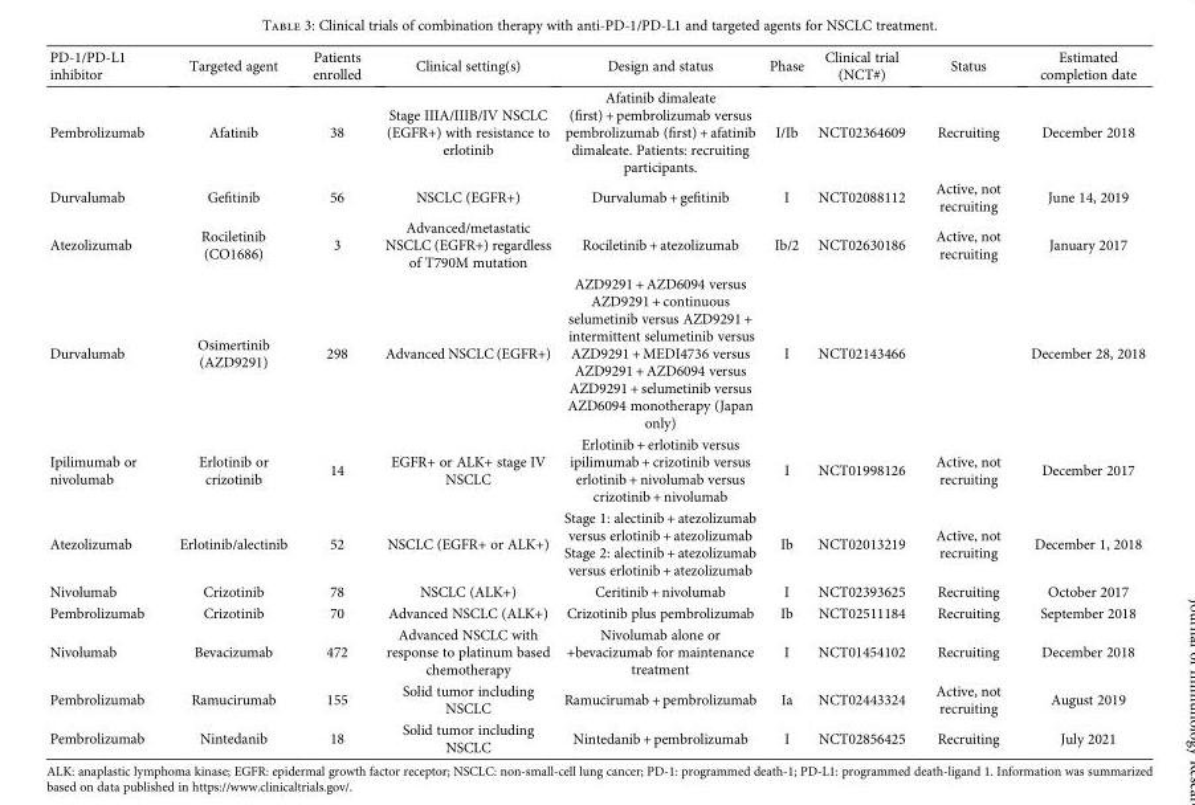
<table><thead><tr><td>PD-1/PD-L1 inhibitor</td><td>Targeted agent</td><td>Patients enrolled</td><td>Clinical setting(s)</td><td>Design and status</td><td>Phase</td><td>Clinical trial (NCT#)</td><td>Status</td><td>Estimated completion date</td></tr></thead><tbody><tr><td>Pembrolizumab</td><td>Afatinib</td><td>38</td><td>Stage IIIA/IIIB/IV NSCLC (EGFR+) with resistance to erlotinib</td><td>Afatinib dimaleate (first) + pembrolizumab versus pembrolizumab (first) + afatinib dimaleate. Patients: recruiting participants.</td><td>I/Ib</td><td>NCT02364609</td><td>Recruiting</td><td>December 2018</td></tr><tr><td>Durvalumab</td><td>Gefitinib</td><td>56</td><td>NSCLC (EGFR+)</td><td>Durvalumab + gefitinib</td><td>I</td><td>NCT02088112</td><td>Active, not recruiting</td><td>June 14, 2019</td></tr><tr><td>Atezolizumab</td><td>Rociletinib (CO1686)</td><td>3</td><td>Advanced/metastatic NSCLC (EGFR+) regardless of T790M mutation</td><td>Rociletinib + atezolizumab</td><td>Ib/2</td><td>NCT02630186</td><td>Active, not recruiting</td><td>January 2017</td></tr><tr><td>Durvalumab</td><td>Osimertinib (AZD9291)</td><td>298</td><td>Advanced NSCLC (EGFR+)</td><td>AZD9291 + AZD6094 versus AZD9291 + continuous selumetinib versus AZD9291 + intermittent selumetinib versus AZD9291 + MEDI4736 versus AZD9291 + AZD6094 versus AZD9291 + selumetinib versus AZD6094 monotherapy (Japan only)</td><td>I</td><td>NCT02143466</td><td></td><td>December 28, 2018</td></tr><tr><td>Ipilimumab or nivolumab</td><td>Erlotinib or crizotinib</td><td>14</td><td>EGFR+ or ALK+ stage IV NSCLC</td><td>Erlotinib + erlotinib versus ipilimumab + crizotinib versus erlotinib + nivolumab versus crizotinib + nivolumab</td><td>I</td><td>NCT01998126</td><td>Active, not recruiting</td><td>December 2017</td></tr><tr><td>Atezolizumab</td><td>Erlotinib/alectinib</td><td>52</td><td>NSCLC (EGFR+ or ALK+)</td><td>Stage 1: alectinib + atezolizumab versus erlotinib + atezolizumab Stage 2: alectinib + atezolizumab versus erlotinib + atezolizumab</td><td>Ib</td><td>NCT02013219</td><td>Active, not recruiting</td><td>December 1, 2018</td></tr><tr><td>Nivolumab</td><td>Crizotinib</td><td>78</td><td>NSCLC (ALK+)</td><td>Ceritinib + nivolumab</td><td>I</td><td>NCT02393625</td><td>Recruiting</td><td>October 2017</td></tr><tr><td>Pembrolizumab</td><td>Crizotinib</td><td>70</td><td>Advanced NSCLC (ALK+)</td><td>Crizotinib plus pembrolizumab</td><td>Ib</td><td>NCT02511184</td><td>Recruiting</td><td>September 2018</td></tr><tr><td>Nivolumab</td><td>Bevacizumab</td><td>472</td><td>Advanced NSCLC with response to platinum based chemotherapy</td><td>Nivolumab alone or +bevacizumab for maintenance treatment</td><td>I</td><td>NCT01454102</td><td>Recruiting</td><td>December 2018</td></tr><tr><td>Pembrolizumab</td><td>Ramucirumab</td><td>155</td><td>Solid tumor including NSCLC</td><td>Ramucirumab + pembrolizumab</td><td>Ia</td><td>NCT02443324</td><td>Active, not recruiting</td><td>August 2019</td></tr><tr><td>Pembrolizumab</td><td>Nintedanib</td><td>18</td><td>Solid tumor including NSCLC</td><td>Nintedanib + pembrolizumab</td><td>I</td><td>NCT02856425</td><td>Recruiting</td><td>July 2021</td></tr></tbody></table>